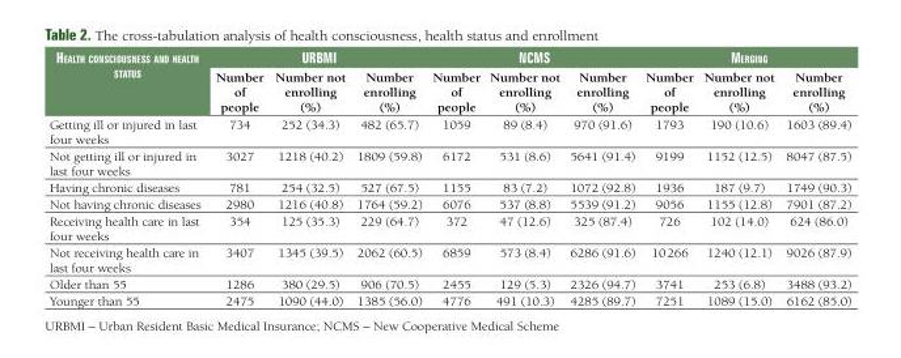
<table><thead><tr><td rowspan="2">health conscIousness and health status</td><td colspan="3">urbmI</td><td colspan="3">ncms</td><td colspan="3">mergIng</td></tr><tr><td>Number of people</td><td>Number not enrolling (%)</td><td>Number enrolling (%)</td><td>Number of people</td><td>Number not enrolling (%)</td><td>Number enrolling (%)</td><td>Number of people</td><td>Number not enrolling (%)</td><td>Number enrolling (%)</td></tr></thead><tbody><tr><td>Getting ill or injured in last four weeks</td><td>734</td><td>252 (34.3)</td><td>482 (65.7)</td><td>1059</td><td>89 (8.4)</td><td>970 (91.6)</td><td>1793</td><td>190 (10.6)</td><td>1603 (89.4)</td></tr><tr><td>Not getting ill or injured in last four weeks</td><td>3027</td><td>1218 (40.2)</td><td>1809 (59.8)</td><td>6172</td><td>531 (8.6)</td><td>5641 (91.4)</td><td>9199</td><td>1152 (12.5)</td><td>8047 (87.5)</td></tr><tr><td>Having chronic diseases</td><td>781</td><td>254 (32.5)</td><td>527 (67.5)</td><td>1155</td><td>83 (7.2)</td><td>1072 (92.8)</td><td>1936</td><td>187 (9.7)</td><td>1749 (90.3)</td></tr><tr><td>Not having chronic diseases</td><td>2980</td><td>1216 (40.8)</td><td>1764 (59.2)</td><td>6076</td><td>537 (8.8)</td><td>5539 (91.2)</td><td>9056</td><td>1155 (12.8)</td><td>7901 (87.2)</td></tr><tr><td>Receiving health care in last four weeks</td><td>354</td><td>125 (35.3)</td><td>229 (64.7)</td><td>372</td><td>47 (12.6)</td><td>325 (87.4)</td><td>726</td><td>102 (14.0)</td><td>624 (86.0)</td></tr><tr><td>Not receiving health care in last four weeks</td><td>3407</td><td>1345 (39.5)</td><td>2062 (60.5)</td><td>6859</td><td>573 (8.4)</td><td>6286 (91.6)</td><td>10 266</td><td>1240 (12.1)</td><td>9026 (87.9)</td></tr><tr><td>Older than 55</td><td>1286</td><td>380 (29.5)</td><td>906 (70.5)</td><td>2455</td><td>129 (5.3)</td><td>2326 (94.7)</td><td>3741</td><td>253 (6.8)</td><td>3488 (93.2)</td></tr><tr><td>Younger than 55</td><td>2475</td><td>1090 (44.0)</td><td>1385 (56.0)</td><td>4776</td><td>491 (10.3)</td><td>4285 (89.7)</td><td>7251</td><td>1089 (15.0)</td><td>6162 (85.0)</td></tr></tbody></table>